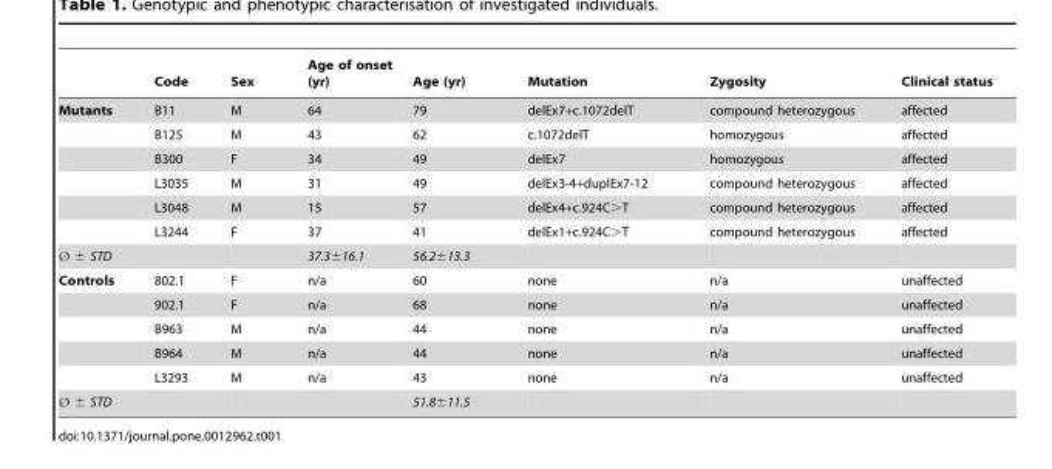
<table><thead><tr><td></td><td>Code</td><td>Sex</td><td>Age of onset (yr)</td><td>Age (yr)</td><td>Mutation</td><td>Zygosity</td><td>Clinical status</td></tr></thead><tbody><tr><td rowspan="6">Mutants</td><td>B11</td><td>M</td><td>64</td><td>79</td><td>delEx7+c.1072delT</td><td>compound heterozygous</td><td>affected</td></tr><tr><td>B125</td><td>M</td><td>43</td><td>62</td><td>c.1072delT</td><td>homozygous</td><td>affected</td></tr><tr><td>B300</td><td>F</td><td>34</td><td>49</td><td>delEx7</td><td>homozygous</td><td>affected</td></tr><tr><td>L3035</td><td>M</td><td>31</td><td>49</td><td>delEx3-4+duplEx7-12</td><td>compound heterozygous</td><td>affected</td></tr><tr><td>L3048</td><td>M</td><td>15</td><td>57</td><td>delEx4+c.924C&gt;T</td><td>compound heterozygous</td><td>affected</td></tr><tr><td>L3244</td><td>F</td><td>37</td><td>41</td><td>delEx1+c.924C&gt;T</td><td>compound heterozygous</td><td>affected</td></tr><tr><td>Ø ± STD</td><td></td><td></td><td>37.3±16.1</td><td>56.2±13.3</td><td></td><td></td><td></td></tr><tr><td rowspan="5">Controls</td><td>802.1</td><td>F</td><td>n/a</td><td>60</td><td>none</td><td>n/a</td><td>unaffected</td></tr><tr><td>902.1</td><td>F</td><td>n/a</td><td>68</td><td>none</td><td>n/a</td><td>unaffected</td></tr><tr><td>B963</td><td>M</td><td>n/a</td><td>44</td><td>none</td><td>n/a</td><td>unaffected</td></tr><tr><td>B964</td><td>M</td><td>n/a</td><td>44</td><td>none</td><td>n/a</td><td>unaffected</td></tr><tr><td>L3293</td><td>M</td><td>n/a</td><td>43</td><td>none</td><td>n/a</td><td>unaffected</td></tr><tr><td>Ø ± STD</td><td></td><td></td><td></td><td>51.8±11.5</td><td></td><td></td><td></td></tr></tbody></table>